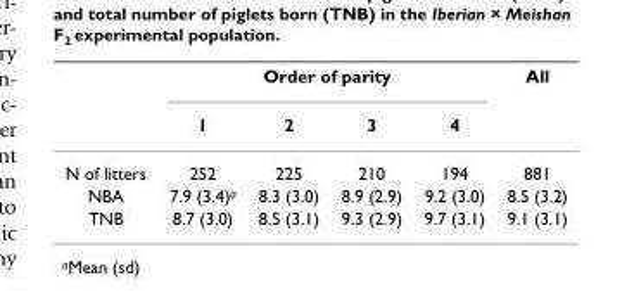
<table><thead><tr><td rowspan="2"></td><td colspan="4">Order of parity</td><td rowspan="2">All</td></tr><tr><td>1</td><td>2</td><td>3</td><td>4</td></tr></thead><tbody><tr><td>N of litters</td><td>252</td><td>225</td><td>210</td><td>194</td><td>881</td></tr><tr><td>NBA</td><td>7.9 (3.4)<sup>a</sup></td><td>8.3 (3.0)</td><td>8.9 (2.9)</td><td>9.2 (3.0)</td><td>8.5 (3.2)</td></tr><tr><td>TNB</td><td>8.7 (3.0)</td><td>8.5 (3.1)</td><td>9.3 (2.9)</td><td>9.7 (3.1)</td><td>9.1 (3.1)</td></tr></tbody></table>